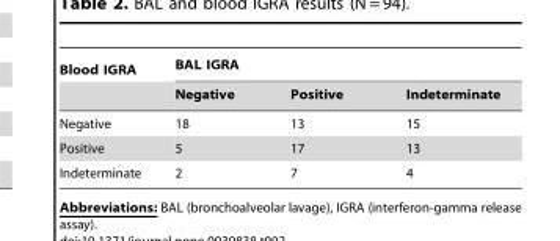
<table><thead><tr><td rowspan="2">Blood IGRA</td><td colspan="3">BAL IGRA</td></tr><tr><td>Negative</td><td>Positive</td><td>Indeterminate</td></tr></thead><tbody><tr><td>Negative</td><td>18</td><td>13</td><td>15</td></tr><tr><td>Positive</td><td>5</td><td>17</td><td>13</td></tr><tr><td>Indeterminate</td><td>2</td><td>7</td><td>4</td></tr></tbody></table>